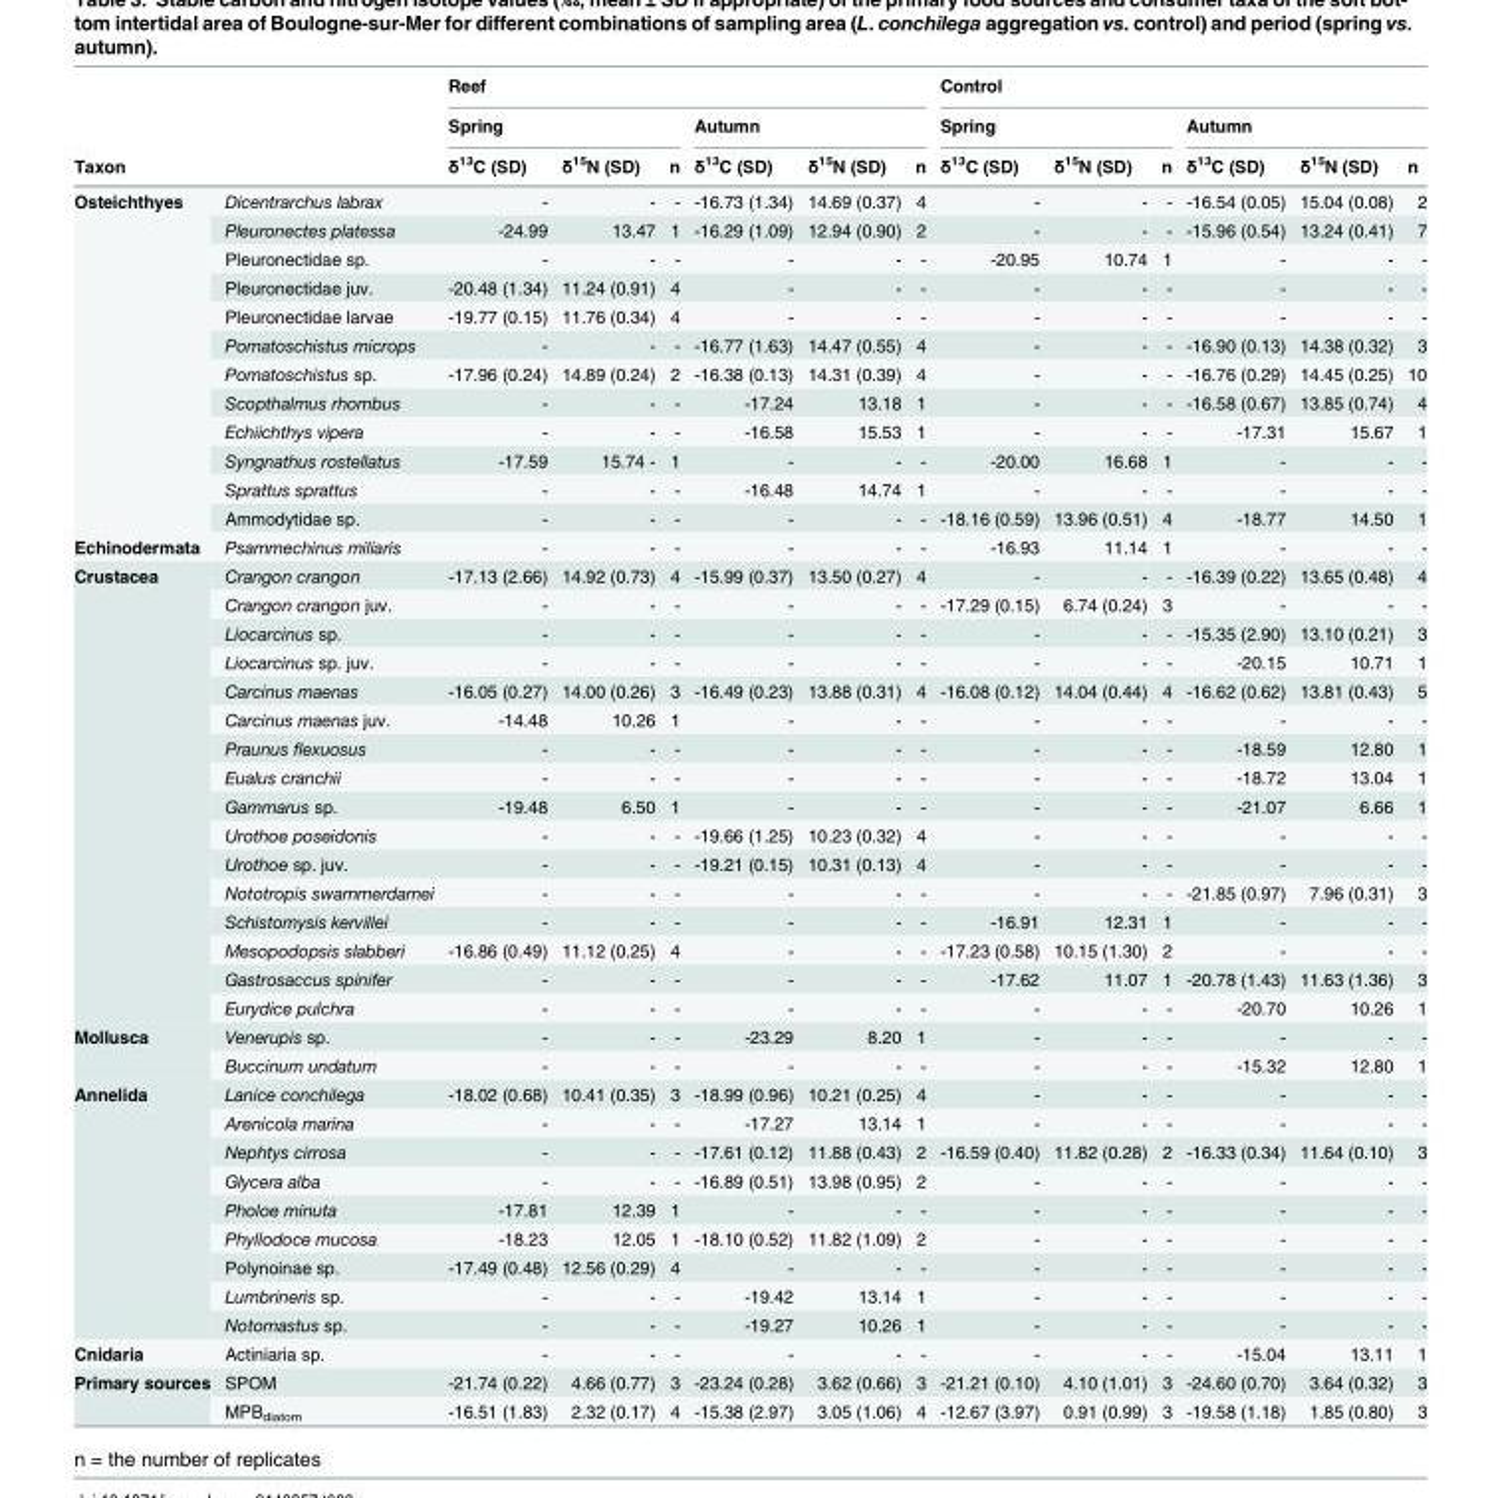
<table><thead><tr><td rowspan="3">Taxon</td><td rowspan="3"></td><td colspan="6">Reef</td><td colspan="6">Control</td></tr><tr><td colspan="3">Spring</td><td colspan="3">Autumn</td><td colspan="3">Spring</td><td colspan="3">Autumn</td></tr><tr><td>δ<sup>13</sup>C (SD)</td><td>δ<sup>15</sup>N (SD)</td><td>n</td><td>δ<sup>13</sup>C (SD)</td><td>δ<sup>15</sup>N (SD)</td><td>n</td><td>δ<sup>13</sup>C (SD)</td><td>δ<sup>15</sup>N (SD)</td><td>n</td><td>δ<sup>13</sup>C (SD)</td><td>δ<sup>15</sup>N (SD)</td><td>n</td></tr></thead><tbody><tr><td rowspan="12">Osteichthyes</td><td>Dicentrarchus labrax</td><td>-</td><td>-</td><td>-</td><td>-16.73 (1.34)</td><td>14.69 (0.37)</td><td>4</td><td>-</td><td>-</td><td>-</td><td>-16.54 (0.05)</td><td>15.04 (0.08)</td><td>2</td></tr><tr><td>Pleuronectes platessa</td><td>-24.99</td><td>13.47</td><td>1</td><td>-16.29 (1.09)</td><td>12.94 (0.90)</td><td>2</td><td>-</td><td>-</td><td>-</td><td>-15.96 (0.54)</td><td>13.24 (0.41)</td><td>7</td></tr><tr><td>Pleuronectidae sp.</td><td>-</td><td>-</td><td>-</td><td>-</td><td>-</td><td>-</td><td>-20.95</td><td>10.74</td><td>1</td><td>-</td><td>-</td><td>-</td></tr><tr><td>Pleuronectidae juv.</td><td>-20.48 (1.34)</td><td>11.24 (0.91)</td><td>4</td><td>-</td><td>-</td><td>-</td><td>-</td><td>-</td><td>-</td><td>-</td><td>-</td><td>-</td></tr><tr><td>Pleuronectidae larvae</td><td>-19.77 (0.15)</td><td>11.76 (0.34)</td><td>4</td><td>-</td><td>-</td><td>-</td><td>-</td><td>-</td><td>-</td><td>-</td><td>-</td><td>-</td></tr><tr><td>Pomatoschistus microps</td><td>-</td><td>-</td><td>-</td><td>-16.77 (1.63)</td><td>14.47 (0.55)</td><td>4</td><td>-</td><td>-</td><td>-</td><td>-16.90 (0.13)</td><td>14.38 (0.32)</td><td>3</td></tr><tr><td>Pomatoschistus sp.</td><td>-17.96 (0.24)</td><td>14.89 (0.24)</td><td>2</td><td>-16.38 (0.13)</td><td>14.31 (0.39)</td><td>4</td><td>-</td><td>-</td><td>-</td><td>-16.76 (0.29)</td><td>14.45 (0.25)</td><td>10</td></tr><tr><td>Scopthalmus rhombus</td><td>-</td><td>-</td><td>-</td><td>-17.24</td><td>13.18</td><td>1</td><td>-</td><td>-</td><td>-</td><td>-16.58 (0.67)</td><td>13.85 (0.74)</td><td>4</td></tr><tr><td>Echiichthys vipera</td><td>-</td><td>-</td><td>-</td><td>-16.58</td><td>15.53</td><td>1</td><td>-</td><td>-</td><td>-</td><td>-17.31</td><td>15.67</td><td>1</td></tr><tr><td>Syngnathus rostellatus</td><td>-17.59</td><td>15.74 -</td><td>1</td><td>-</td><td>-</td><td>-</td><td>-20.00</td><td>16.68</td><td>1</td><td>-</td><td>-</td><td>-</td></tr><tr><td>Sprattus sprattus</td><td>-</td><td>-</td><td>-</td><td>-16.48</td><td>14.74</td><td>1</td><td>-</td><td>-</td><td>-</td><td>-</td><td>-</td><td>-</td></tr><tr><td>Ammodytidae sp.</td><td>-</td><td>-</td><td>-</td><td>-</td><td>-</td><td>-</td><td>-18.16 (0.59)</td><td>13.96 (0.51)</td><td>4</td><td>-18.77</td><td>14.50</td><td>1</td></tr><tr><td>Echinodermata</td><td>Psammechinus miliaris</td><td>-</td><td>-</td><td>-</td><td>-</td><td>-</td><td>-</td><td>-16.93</td><td>11.14</td><td>1</td><td>-</td><td>-</td><td>-</td></tr><tr><td rowspan="16">Crustacea</td><td>Crangon crangon</td><td>-17.13 (2.66)</td><td>14.92 (0.73)</td><td>4</td><td>-15.99 (0.37)</td><td>13.50 (0.27)</td><td>4</td><td>-</td><td>-</td><td>-</td><td>-16.39 (0.22)</td><td>13.65 (0.48)</td><td>4</td></tr><tr><td>Crangon crangon juv.</td><td>-</td><td>-</td><td>-</td><td>-</td><td>-</td><td>-</td><td>-17.29 (0.15)</td><td>6.74 (0.24)</td><td>3</td><td>-</td><td>-</td><td>-</td></tr><tr><td>Liocarcinus sp.</td><td>-</td><td>-</td><td>-</td><td>-</td><td>-</td><td>-</td><td>-</td><td>-</td><td>-</td><td>-15.35 (2.90)</td><td>13.10 (0.21)</td><td>3</td></tr><tr><td>Liocarcinus sp. juv.</td><td>-</td><td>-</td><td>-</td><td>-</td><td>-</td><td>-</td><td>-</td><td>-</td><td>-</td><td>-20.15</td><td>10.71</td><td>1</td></tr><tr><td>Carcinus maenas</td><td>-16.05 (0.27)</td><td>14.00 (0.26)</td><td>3</td><td>-16.49 (0.23)</td><td>13.88 (0.31)</td><td>4</td><td>-16.08 (0.12)</td><td>14.04 (0.44)</td><td>4</td><td>-16.62 (0.62)</td><td>13.81 (0.43)</td><td>5</td></tr><tr><td>Carcinus maenas juv.</td><td>-14.48</td><td>10.26</td><td>1</td><td>-</td><td>-</td><td>-</td><td>-</td><td>-</td><td>-</td><td>-</td><td>-</td><td>-</td></tr><tr><td>Praunus flexuosus</td><td>-</td><td>-</td><td>-</td><td>-</td><td>-</td><td>-</td><td>-</td><td>-</td><td>-</td><td>-18.59</td><td>12.80</td><td>1</td></tr><tr><td>Eualus cranchii</td><td>-</td><td>-</td><td>-</td><td>-</td><td>-</td><td>-</td><td>-</td><td>-</td><td>-</td><td>-18.72</td><td>13.04</td><td>1</td></tr><tr><td>Gammarus sp.</td><td>-19.48</td><td>6.50</td><td>1</td><td>-</td><td>-</td><td>-</td><td>-</td><td>-</td><td>-</td><td>-21.07</td><td>6.66</td><td>1</td></tr><tr><td>Urothoe poseidonis</td><td>-</td><td>-</td><td>-</td><td>-19.66 (1.25)</td><td>10.23 (0.32)</td><td>4</td><td>-</td><td>-</td><td>-</td><td>-</td><td>-</td><td>-</td></tr><tr><td>Urothoe sp. juv.</td><td>-</td><td>-</td><td>-</td><td>-19.21 (0.15)</td><td>10.31 (0.13)</td><td>4</td><td>-</td><td>-</td><td>-</td><td>-</td><td>-</td><td>-</td></tr><tr><td>Nototropis swammerdamei</td><td>-</td><td>-</td><td>-</td><td>-</td><td>-</td><td>-</td><td>-</td><td>-</td><td>-</td><td>-21.85 (0.97)</td><td>7.96 (0.31)</td><td>3</td></tr><tr><td>Schistomysis kervillei</td><td>-</td><td>-</td><td>-</td><td>-</td><td>-</td><td>-</td><td>-16.91</td><td>12.31</td><td>1</td><td>-</td><td>-</td><td>-</td></tr><tr><td>Mesopodopsis slabberi</td><td>-16.86 (0.49)</td><td>11.12 (0.25)</td><td>4</td><td>-</td><td>-</td><td>-</td><td>-17.23 (0.58)</td><td>10.15 (1.30)</td><td>2</td><td>-</td><td>-</td><td>-</td></tr><tr><td>Gastrosaccus spinifer</td><td>-</td><td>-</td><td>-</td><td>-</td><td>-</td><td>-</td><td>-17.62</td><td>11.07</td><td>1</td><td>-20.78 (1.43)</td><td>11.63 (1.36)</td><td>3</td></tr><tr><td>Eurydice pulchra</td><td>-</td><td>-</td><td>-</td><td>-</td><td>-</td><td>-</td><td>-</td><td>-</td><td>-</td><td>-20.70</td><td>10.26</td><td>1</td></tr><tr><td rowspan="2">Mollusca</td><td>Venerupis sp.</td><td>-</td><td>-</td><td>-</td><td>-23.29</td><td>8.20</td><td>1</td><td>-</td><td>-</td><td>-</td><td>-</td><td>-</td><td>-</td></tr><tr><td>Buccinum undatum</td><td>-</td><td>-</td><td>-</td><td>-</td><td>-</td><td>-</td><td>-</td><td>-</td><td>-</td><td>-15.32</td><td>12.80</td><td>1</td></tr><tr><td rowspan="9">Annelida</td><td>Lanice conchilega</td><td>-18.02 (0.68)</td><td>10.41 (0.35)</td><td>3</td><td>-18.99 (0.96)</td><td>10.21 (0.25)</td><td>4</td><td>-</td><td>-</td><td>-</td><td>-</td><td>-</td><td>-</td></tr><tr><td>Arenicola marina</td><td>-</td><td>-</td><td>-</td><td>-17.27</td><td>13.14</td><td>1</td><td>-</td><td>-</td><td>-</td><td>-</td><td>-</td><td>-</td></tr><tr><td>Nephtys cirrosa</td><td>-</td><td>-</td><td>-</td><td>-17.61 (0.12)</td><td>11.88 (0.43)</td><td>2</td><td>-16.59 (0.40)</td><td>11.82 (0.28)</td><td>2</td><td>-16.33 (0.34)</td><td>11.64 (0.10)</td><td>3</td></tr><tr><td>Glycera alba</td><td>-</td><td>-</td><td>-</td><td>-16.89 (0.51)</td><td>13.98 (0.95)</td><td>2</td><td>-</td><td>-</td><td>-</td><td>-</td><td>-</td><td>-</td></tr><tr><td>Pholoe minuta</td><td>-17.81</td><td>12.39</td><td>1</td><td>-</td><td>-</td><td>-</td><td>-</td><td>-</td><td>-</td><td>-</td><td>-</td><td>-</td></tr><tr><td>Phyllodoce mucosa</td><td>-18.23</td><td>12.05</td><td>1</td><td>-18.10 (0.52)</td><td>11.82 (1.09)</td><td>2</td><td>-</td><td>-</td><td>-</td><td>-</td><td>-</td><td>-</td></tr><tr><td>Polynoinae sp.</td><td>-17.49 (0.48)</td><td>12.56 (0.29)</td><td>4</td><td>-</td><td>-</td><td>-</td><td>-</td><td>-</td><td>-</td><td>-</td><td>-</td><td>-</td></tr><tr><td>Lumbrineris sp.</td><td>-</td><td>-</td><td>-</td><td>-19.42</td><td>13.14</td><td>1</td><td>-</td><td>-</td><td>-</td><td>-</td><td>-</td><td>-</td></tr><tr><td>Notomastus sp.</td><td>-</td><td>-</td><td>-</td><td>-19.27</td><td>10.26</td><td>1</td><td>-</td><td>-</td><td>-</td><td>-</td><td>-</td><td>-</td></tr><tr><td>Cnidaria</td><td>Actiniaria sp.</td><td>-</td><td>-</td><td>-</td><td>-</td><td>-</td><td>-</td><td>-</td><td>-</td><td>-</td><td>-15.04</td><td>13.11</td><td>1</td></tr><tr><td rowspan="2">Primary sources</td><td>SPOM</td><td>-21.74 (0.22)</td><td>4.66 (0.77)</td><td>3</td><td>-23.24 (0.28)</td><td>3.62 (0.66)</td><td>3</td><td>-21.21 (0.10)</td><td>4.10 (1.01)</td><td>3</td><td>-24.60 (0.70)</td><td>3.64 (0.32)</td><td>3</td></tr><tr><td>MPB<sub>diatom</sub></td><td>-16.51 (1.83)</td><td>2.32 (0.17)</td><td>4</td><td>-15.38 (2.97)</td><td>3.05 (1.06)</td><td>4</td><td>-12.67 (3.97)</td><td>0.91 (0.99)</td><td>3</td><td>-19.58 (1.18)</td><td>1.85 (0.80)</td><td>3</td></tr></tbody></table>